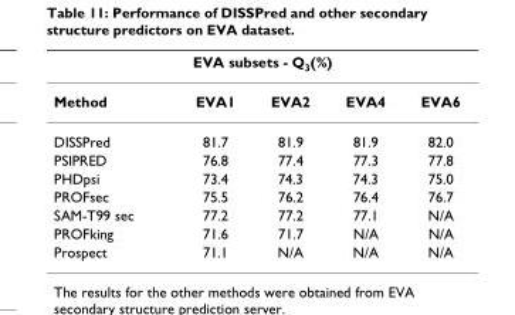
<table><thead><tr><td colspan="5">EVA subsets - Q<sub>3</sub>(%)</td></tr><tr><td>Method</td><td>EVA1</td><td>EVA2</td><td>EVA4</td><td>EVA6</td></tr></thead><tbody><tr><td>DISSPred</td><td>81.7</td><td>81.9</td><td>81.9</td><td>82.0</td></tr><tr><td>PSIPRED</td><td>76.8</td><td>77.4</td><td>77.3</td><td>77.8</td></tr><tr><td>PHDpsi</td><td>73.4</td><td>74.3</td><td>74.3</td><td>75.0</td></tr><tr><td>PROFsec</td><td>75.5</td><td>76.2</td><td>76.4</td><td>76.7</td></tr><tr><td>SAM-T99 sec</td><td>77.2</td><td>77.2</td><td>77.1</td><td>N/A</td></tr><tr><td>PROFking</td><td>71.6</td><td>71.7</td><td>N/A</td><td>N/A</td></tr><tr><td>Prospect</td><td>71.1</td><td>N/A</td><td>N/A</td><td>N/A</td></tr></tbody></table>